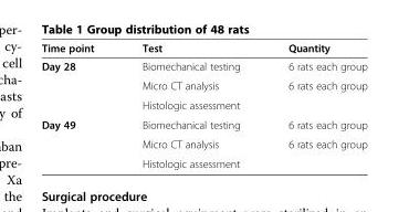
<table><thead><tr><td>Time point</td><td>Test</td><td>Quantity</td></tr></thead><tbody><tr><td rowspan="3">Day 28</td><td>Biomechanical testing</td><td>6 rats each group</td></tr><tr><td>Micro CT analysis</td><td rowspan="2">6 rats each group</td></tr><tr><td>Histologic assessment</td></tr><tr><td rowspan="3">Day 49</td><td>Biomechanical testing</td><td>6 rats each group</td></tr><tr><td>Micro CT analysis</td><td rowspan="2">6 rats each group</td></tr><tr><td>Histologic assessment</td></tr></tbody></table>